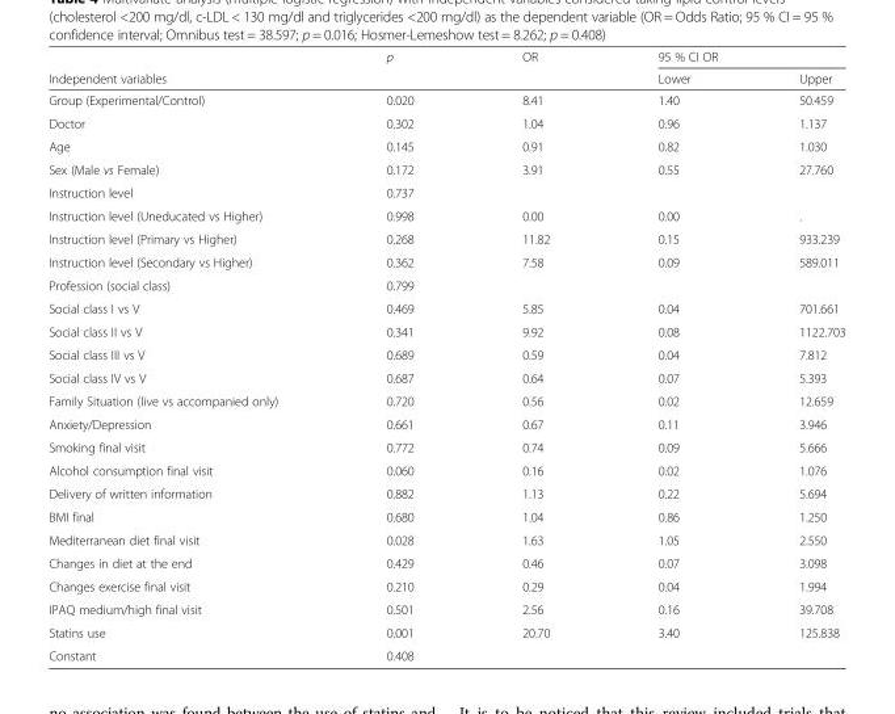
<table><thead><tr><td rowspan="2">Independent variables</td><td rowspan="2">p</td><td rowspan="2">OR</td><td colspan="2">95 % CI OR</td></tr><tr><td>Lower</td><td>Upper</td></tr></thead><tbody><tr><td>Group (Experimental/Control)</td><td>0.020</td><td>8.41</td><td>1.40</td><td>50.459</td></tr><tr><td>Doctor</td><td>0.302</td><td>1.04</td><td>0.96</td><td>1.137</td></tr><tr><td>Age</td><td>0.145</td><td>0.91</td><td>0.82</td><td>1.030</td></tr><tr><td>Sex (Male vs Female)</td><td>0.172</td><td>3.91</td><td>0.55</td><td>27.760</td></tr><tr><td>Instruction level</td><td>0.737</td><td colspan="3"></td></tr><tr><td>Instruction level (Uneducated vs Higher)</td><td>0.998</td><td>0.00</td><td>0.00</td><td>.</td></tr><tr><td>Instruction level (Primary vs Higher)</td><td>0.268</td><td>11.82</td><td>0.15</td><td>933.239</td></tr><tr><td>Instruction level (Secondary vs Higher)</td><td>0.362</td><td>7.58</td><td>0.09</td><td>589.011</td></tr><tr><td>Profession (social class)</td><td>0.799</td><td colspan="3"></td></tr><tr><td>Social class I vs V</td><td>0.469</td><td>5.85</td><td>0.04</td><td>701.661</td></tr><tr><td>Social class II vs V</td><td>0.341</td><td>9.92</td><td>0.08</td><td>1122.703</td></tr><tr><td>Social class III vs V</td><td>0.689</td><td>0.59</td><td>0.04</td><td>7.812</td></tr><tr><td>Social class IV vs V</td><td>0.687</td><td>0.64</td><td>0.07</td><td>5.393</td></tr><tr><td>Family Situation (live vs accompanied only)</td><td>0.720</td><td>0.56</td><td>0.02</td><td>12.659</td></tr><tr><td>Anxiety/Depression</td><td>0.661</td><td>0.67</td><td>0.11</td><td>3.946</td></tr><tr><td>Smoking final visit</td><td>0.772</td><td>0.74</td><td>0.09</td><td>5.666</td></tr><tr><td>Alcohol consumption final visit</td><td>0.060</td><td>0.16</td><td>0.02</td><td>1.076</td></tr><tr><td>Delivery of written information</td><td>0.882</td><td>1.13</td><td>0.22</td><td>5.694</td></tr><tr><td>BMI final</td><td>0.680</td><td>1.04</td><td>0.86</td><td>1.250</td></tr><tr><td>Mediterranean diet final visit</td><td>0.028</td><td>1.63</td><td>1.05</td><td>2.550</td></tr><tr><td>Changes in diet at the end</td><td>0.429</td><td>0.46</td><td>0.07</td><td>3.098</td></tr><tr><td>Changes exercise final visit</td><td>0.210</td><td>0.29</td><td>0.04</td><td>1.994</td></tr><tr><td>IPAQ medium/high final visit</td><td>0.501</td><td>2.56</td><td>0.16</td><td>39.708</td></tr><tr><td>Statins use</td><td>0.001</td><td>20.70</td><td>3.40</td><td>125.838</td></tr><tr><td>Constant</td><td>0.408</td><td colspan="3"></td></tr></tbody></table>